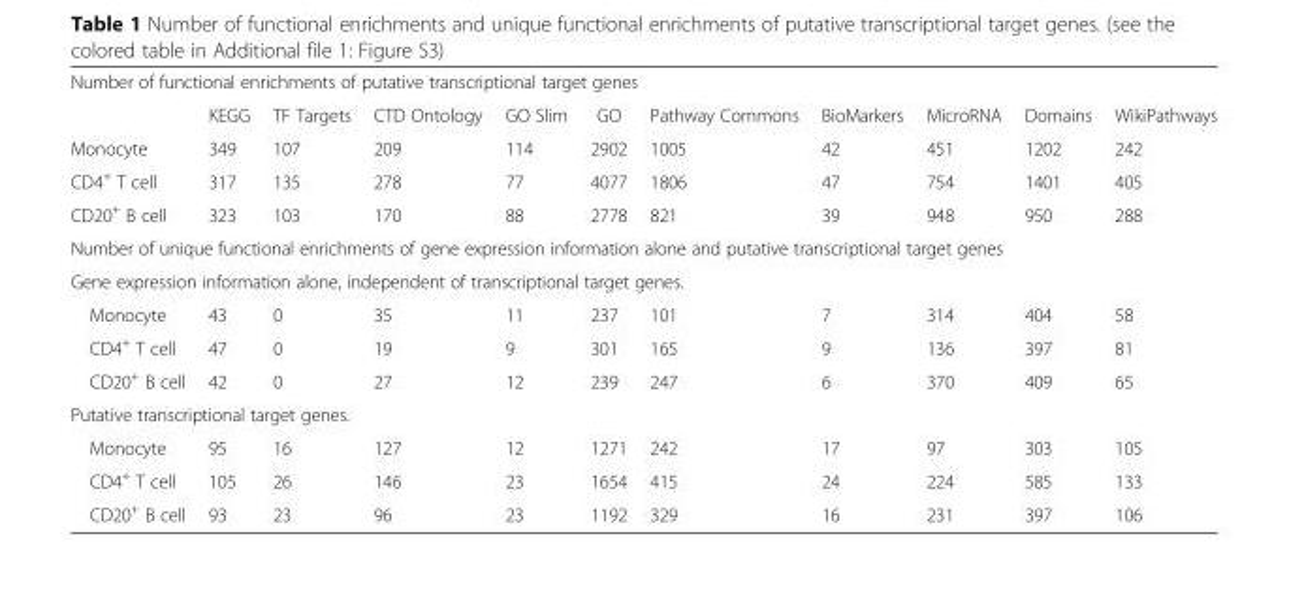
<table><tbody><tr><td colspan="11">Number of functional enrichments of putative transcriptional target genes</td></tr><tr><td></td><td>KEGG</td><td>TF Targets</td><td>CTD Ontology</td><td>GO Slim</td><td>GO</td><td>Pathway Commons</td><td>BioMarkers</td><td>MicroRNA</td><td>Domains</td><td>WikiPathways</td></tr><tr><td>Monocyte</td><td>349</td><td>107</td><td>209</td><td>114</td><td>2902</td><td>1005</td><td>42</td><td>451</td><td>1202</td><td>242</td></tr><tr><td>CD4<sup>+</sup> T cell</td><td>317</td><td>135</td><td>278</td><td>77</td><td>4077</td><td>1806</td><td>47</td><td>754</td><td>1401</td><td>405</td></tr><tr><td>CD20<sup>+</sup> B cell</td><td>323</td><td>103</td><td>170</td><td>88</td><td>2778</td><td>821</td><td>39</td><td>948</td><td>950</td><td>288</td></tr><tr><td colspan="11">Number of unique functional enrichments of gene expression information alone and putative transcriptional target genes</td></tr><tr><td colspan="11">Gene expression information alone, independent of transcriptional target genes.</td></tr><tr><td>Monocyte</td><td>43</td><td>0</td><td>35</td><td>11</td><td>237</td><td>101</td><td>7</td><td>314</td><td>404</td><td>58</td></tr><tr><td>CD4<sup>+</sup> T cell</td><td>47</td><td>0</td><td>19</td><td>9</td><td>301</td><td>165</td><td>9</td><td>136</td><td>397</td><td>81</td></tr><tr><td>CD20<sup>+</sup> B cell</td><td>42</td><td>0</td><td>27</td><td>12</td><td>239</td><td>247</td><td>6</td><td>370</td><td>409</td><td>65</td></tr><tr><td colspan="11">Putative transcriptional target genes.</td></tr><tr><td>Monocyte</td><td>95</td><td>16</td><td>127</td><td>12</td><td>1271</td><td>242</td><td>17</td><td>97</td><td>303</td><td>105</td></tr><tr><td>CD4<sup>+</sup> T cell</td><td>105</td><td>26</td><td>146</td><td>23</td><td>1654</td><td>415</td><td>24</td><td>224</td><td>585</td><td>133</td></tr><tr><td>CD20<sup>+</sup> B cell</td><td>93</td><td>23</td><td>96</td><td>23</td><td>1192</td><td>329</td><td>16</td><td>231</td><td>397</td><td>106</td></tr></tbody></table>